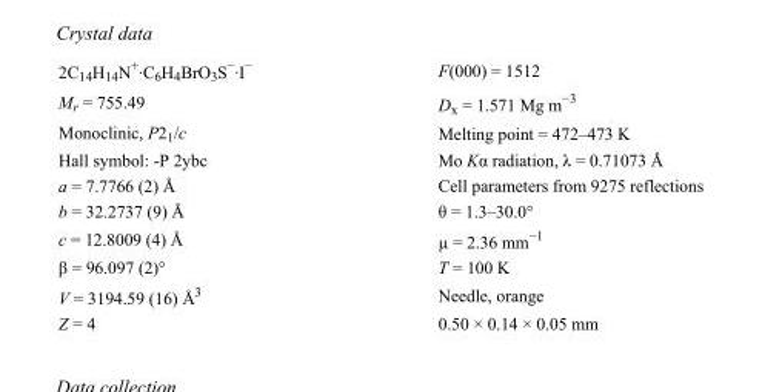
<table><tbody><tr><td>2C<sub>14</sub>H<sub>14</sub>N<sup>+</sup>·C<sub>6</sub>H<sub>4</sub>BrO<sub>3</sub>S<sup>−</sup>·I<sup>−</sup></td><td>F(000) = 1512</td></tr><tr><td>M<sub>r</sub> = 755.49</td><td>D<sub>x</sub> = 1.571 Mg m<sup>−3</sup></td></tr><tr><td>Monoclinic, P2<sub>1</sub>/c</td><td>Melting point = 472–473 K</td></tr><tr><td>Hall symbol: -P 2ybc</td><td>Mo Kα radiation, λ = 0.71073 Å</td></tr><tr><td>a = 7.7766 (2) Å</td><td>Cell parameters from 9275 reflections</td></tr><tr><td>b = 32.2737 (9) Å</td><td>θ = 1.3–30.0°</td></tr><tr><td>c = 12.8009 (4) Å</td><td>µ = 2.36 mm<sup>−1</sup></td></tr><tr><td>β = 96.097 (2)°</td><td>T = 100 K</td></tr><tr><td>V = 3194.59 (16) Å<sup>3</sup></td><td>Needle, orange</td></tr><tr><td>Z = 4</td><td>0.50 × 0.14 × 0.05 mm</td></tr></tbody></table>